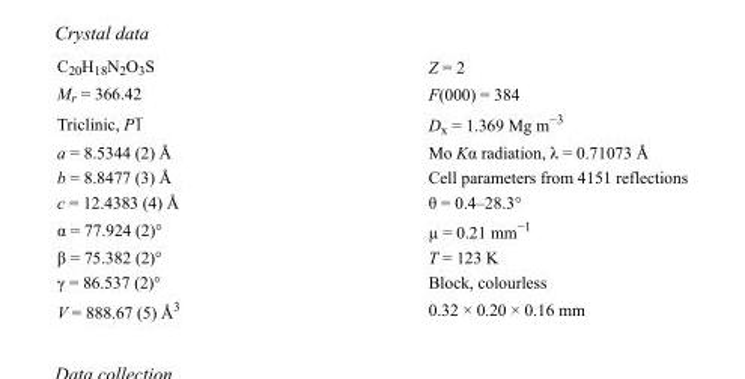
<table><tbody><tr><td>C<sub>20</sub>H<sub>18</sub>N<sub>2</sub>O<sub>3</sub>S</td><td>Z = 2</td></tr><tr><td>M<sub>r</sub> = 366.42</td><td>F(000) = 384</td></tr><tr><td>Triclinic, P1</td><td>D<sub>x</sub> = 1.369 Mg m<sup>−3</sup></td></tr><tr><td>a = 8.5344 (2) Å</td><td>Mo Kα radiation, λ = 0.71073 Å</td></tr><tr><td>b = 8.8477 (3) Å</td><td>Cell parameters from 4151 reflections</td></tr><tr><td>c = 12.4383 (4) Å</td><td>θ = 0.4–28.3°</td></tr><tr><td>α = 77.924 (2)°</td><td>µ = 0.21 mm<sup>−1</sup></td></tr><tr><td>β = 75.382 (2)°</td><td>T = 123 K</td></tr><tr><td>γ = 86.537 (2)°</td><td>Block, colourless</td></tr><tr><td>V = 888.67 (5) Å<sup>3</sup></td><td>0.32 × 0.20 × 0.16 mm</td></tr></tbody></table>